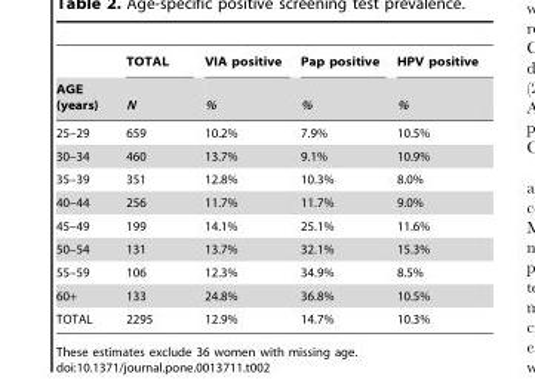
<table><thead><tr><td rowspan="2">AGE (years)</td><td rowspan="2">TOTAL N</td><td rowspan="2">VIA positive %</td><td rowspan="2">Pap positive %</td><td rowspan="2">HPV positive %</td></tr><tr></tr></thead><tbody><tr><td>25–29</td><td>659</td><td>10.2%</td><td>7.9%</td><td>10.5%</td></tr><tr><td>30–34</td><td>460</td><td>13.7%</td><td>9.1%</td><td>10.9%</td></tr><tr><td>35–39</td><td>351</td><td>12.8%</td><td>10.3%</td><td>8.0%</td></tr><tr><td>40–44</td><td>256</td><td>11.7%</td><td>11.7%</td><td>9.0%</td></tr><tr><td>45–49</td><td>199</td><td>14.1%</td><td>25.1%</td><td>11.6%</td></tr><tr><td>50–54</td><td>131</td><td>13.7%</td><td>32.1%</td><td>15.3%</td></tr><tr><td>55–59</td><td>106</td><td>12.3%</td><td>34.9%</td><td>8.5%</td></tr><tr><td>60+</td><td>133</td><td>24.8%</td><td>36.8%</td><td>10.5%</td></tr><tr><td>TOTAL</td><td>2295</td><td>12.9%</td><td>14.7%</td><td>10.3%</td></tr></tbody></table>